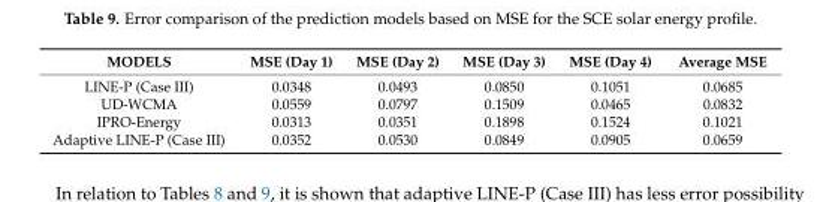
<table><thead><tr><td>MODELS</td><td>MSE (Day 1)</td><td>MSE (Day 2)</td><td>MSE (Day 3)</td><td>MSE (Day 4)</td><td>Average MSE</td></tr></thead><tbody><tr><td>LINE-P (Case III)</td><td>0.0348</td><td>0.0493</td><td>0.0850</td><td>0.1051</td><td>0.0685</td></tr><tr><td>UD-WCMA</td><td>0.0559</td><td>0.0797</td><td>0.1509</td><td>0.0465</td><td>0.0832</td></tr><tr><td>IPRO-Energy</td><td>0.0313</td><td>0.0351</td><td>0.1898</td><td>0.1524</td><td>0.1021</td></tr><tr><td>Adaptive LINE-P (Case III)</td><td>0.0352</td><td>0.0530</td><td>0.0849</td><td>0.0905</td><td>0.0659</td></tr></tbody></table>